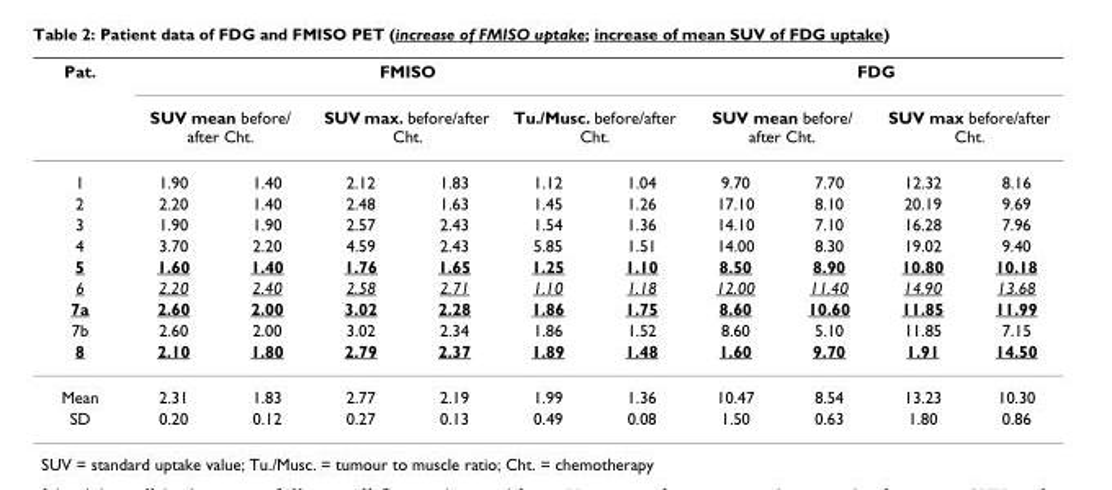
<table><thead><tr><td rowspan="3">Pat. 1</td><td colspan="6">FMISO</td><td colspan="4">FDG</td></tr><tr><td colspan="2">SUV mean before/ after Cht.</td><td colspan="2">SUV max. before/after Cht.</td><td colspan="2">Tu./Musc. before/after Cht.</td><td colspan="2">SUV mean before/ after Cht.</td><td colspan="2">SUV max before/after Cht.</td></tr><tr><td>1.90</td><td>1.40</td><td>2.12</td><td>1.83</td><td>1.12</td><td>1.04</td><td>9.70</td><td>7.70</td><td>12.32</td><td>8.16</td></tr></thead><tbody><tr><td>2</td><td>2.20</td><td>1.40</td><td>2.48</td><td>1.63</td><td>1.45</td><td>1.26</td><td>17.10</td><td>8.10</td><td>20.19</td><td>9.69</td></tr><tr><td>3</td><td>1.90</td><td>1.90</td><td>2.57</td><td>2.43</td><td>1.54</td><td>1.36</td><td>14.10</td><td>7.10</td><td>16.28</td><td>7.96</td></tr><tr><td>4</td><td>3.70</td><td>2.20</td><td>4.59</td><td>2.43</td><td>5.85</td><td>1.51</td><td>14.00</td><td>8.30</td><td>19.02</td><td>9.40</td></tr><tr><td>5</td><td>1.60</td><td>1.40</td><td>1.76</td><td>1.65</td><td>1.25</td><td>1.10</td><td>8.50</td><td>8.90</td><td>10.80</td><td>10.18</td></tr><tr><td>6</td><td>2.20</td><td>2.40</td><td>2.58</td><td>2.71</td><td>1.10</td><td>1.18</td><td>12.00</td><td>11.40</td><td>14.90</td><td>13.68</td></tr><tr><td>7a</td><td>2.60</td><td>2.00</td><td>3.02</td><td>2.28</td><td>1.86</td><td>1.75</td><td>8.60</td><td>10.60</td><td>11.85</td><td>11.99</td></tr><tr><td>7b</td><td>2.60</td><td>2.00</td><td>3.02</td><td>2.34</td><td>1.86</td><td>1.52</td><td>8.60</td><td>5.10</td><td>11.85</td><td>7.15</td></tr><tr><td>8</td><td>2.10</td><td>1.80</td><td>2.79</td><td>2.37</td><td>1.89</td><td>1.48</td><td>1.60</td><td>9.70</td><td>1.91</td><td>14.50</td></tr><tr><td>Mean</td><td>2.31</td><td>1.83</td><td>2.77</td><td>2.19</td><td>1.99</td><td>1.36</td><td>10.47</td><td>8.54</td><td>13.23</td><td>10.30</td></tr><tr><td>SD</td><td>0.20</td><td>0.12</td><td>0.27</td><td>0.13</td><td>0.49</td><td>0.08</td><td>1.50</td><td>0.63</td><td>1.80</td><td>0.86</td></tr></tbody></table>